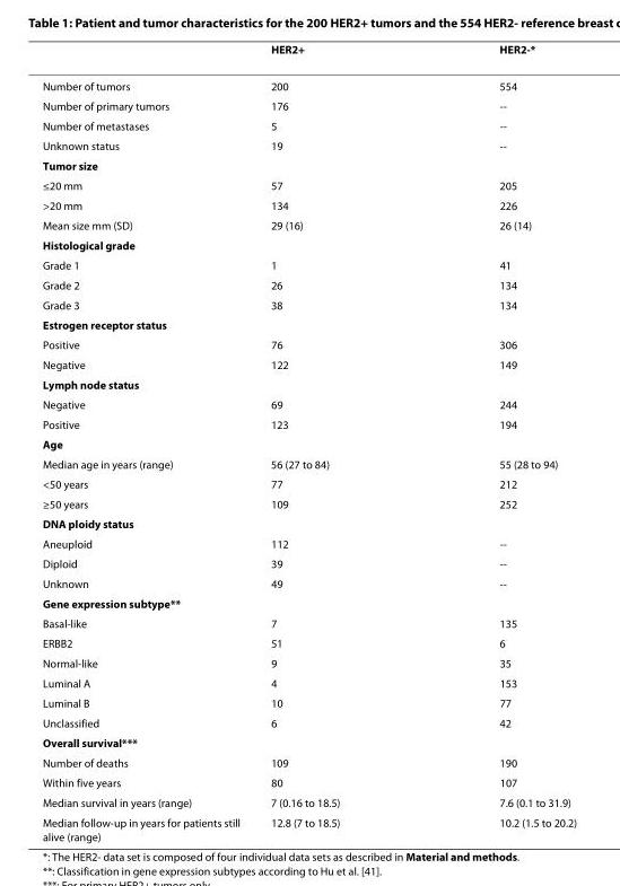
<table><thead><tr><td></td><td>HER2+</td><td>HER2-*</td></tr></thead><tbody><tr><td>Number of tumors</td><td>200</td><td>554</td></tr><tr><td>Number of primary tumors</td><td>176</td><td>--</td></tr><tr><td>Number of metastases</td><td>5</td><td>--</td></tr><tr><td>Unknown status</td><td>19</td><td>--</td></tr><tr><td colspan="3">Tumor size</td></tr><tr><td>≤20 mm</td><td>57</td><td>205</td></tr><tr><td>&gt;20 mm</td><td>134</td><td>226</td></tr><tr><td>Mean size mm (SD)</td><td>29 (16)</td><td>26 (14)</td></tr><tr><td colspan="3">Histological grade</td></tr><tr><td>Grade 1</td><td>1</td><td>41</td></tr><tr><td>Grade 2</td><td>26</td><td>134</td></tr><tr><td>Grade 3</td><td>38</td><td>134</td></tr><tr><td colspan="3">Estrogen receptor status</td></tr><tr><td>Positive</td><td>76</td><td>306</td></tr><tr><td>Negative</td><td>122</td><td>149</td></tr><tr><td colspan="3">Lymph node status</td></tr><tr><td>Negative</td><td>69</td><td>244</td></tr><tr><td>Positive</td><td>123</td><td>194</td></tr><tr><td colspan="3">Age</td></tr><tr><td>Median age in years (range)</td><td>56 (27 to 84)</td><td>55 (28 to 94)</td></tr><tr><td>&lt;50 years</td><td>77</td><td>212</td></tr><tr><td>≥50 years</td><td>109</td><td>252</td></tr><tr><td colspan="3">DNA ploidy status</td></tr><tr><td>Aneuploid</td><td>112</td><td>--</td></tr><tr><td>Diploid</td><td>39</td><td>--</td></tr><tr><td>Unknown</td><td>49</td><td>--</td></tr><tr><td colspan="3">Gene expression subtype**</td></tr><tr><td>Basal-like</td><td>7</td><td>135</td></tr><tr><td>ERBB2</td><td>51</td><td>6</td></tr><tr><td>Normal-like</td><td>9</td><td>35</td></tr><tr><td>Luminal A</td><td>4</td><td>153</td></tr><tr><td>Luminal B</td><td>10</td><td>77</td></tr><tr><td>Unclassified</td><td>6</td><td>42</td></tr><tr><td colspan="3">Overall survival***</td></tr><tr><td>Number of deaths</td><td>109</td><td>190</td></tr><tr><td>Within five years</td><td>80</td><td>107</td></tr><tr><td>Median survival in years (range)</td><td>7 (0.16 to 18.5)</td><td>7.6 (0.1 to 31.9)</td></tr><tr><td>Median follow-up in years for patients still alive (range)</td><td>12.8 (7 to 18.5)</td><td>10.2 (1.5 to 20.2)</td></tr></tbody></table>